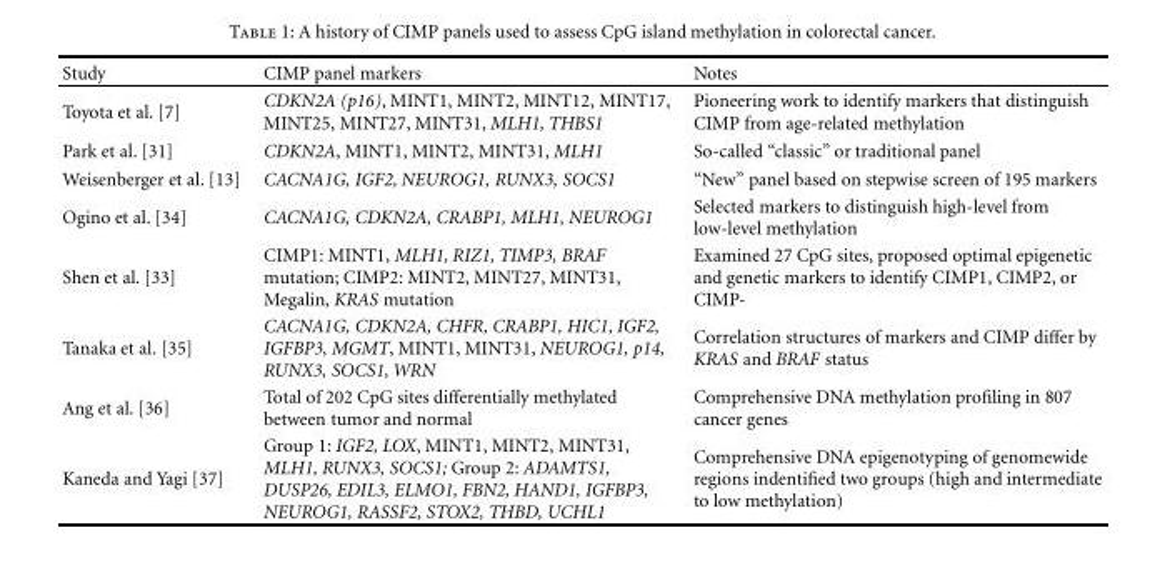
<table><thead><tr><td>Study</td><td>CIMP panel markers</td><td>Notes</td></tr></thead><tbody><tr><td>Toyota et al. [7]</td><td>CDKN2A (p16), MINT1, MINT2, MINT12, MINT17, MINT25, MINT27, MINT31, MLH1, THBS1</td><td>Pioneering work to identify markers that distinguish CIMP from age-related methylation</td></tr><tr><td>Park et al. [31]</td><td>CDKN2A, MINT1, MINT2, MINT31, MLH1</td><td>So-called “classic” or traditional panel</td></tr><tr><td>Weisenberger et al. [13]</td><td>CACNA1G, IGF2, NEUROG1, RUNX3, SOCS1</td><td>“New” panel based on stepwise screen of 195 markers</td></tr><tr><td>Ogino et al. [34]</td><td>CACNA1G, CDKN2A, CRABP1, MLH1, NEUROG1</td><td>Selected markers to distinguish high-level from low-level methylation</td></tr><tr><td>Shen et al. [33]</td><td>CIMP1: MINT1, MLH1, RIZ1, TIMP3, BRAF mutation; CIMP2: MINT2, MINT27, MINT31, Megalin, KRAS mutation</td><td>Examined 27 CpG sites, proposed optimal epigenetic and genetic markers to identify CIMP1, CIMP2, or CIMP-</td></tr><tr><td>Tanaka et al. [35]</td><td>CACNA1G, CDKN2A, CHFR, CRABP1, HIC1, IGF2, IGFBP3, MGMT, MINT1, MINT31, NEUROG1, p14, RUNX3, SOCS1, WRN</td><td>Correlation structures of markers and CIMP differ by KRAS and BRAF status</td></tr><tr><td>Ang et al. [36]</td><td>Total of 202 CpG sites differentially methylated between tumor and normal</td><td>Comprehensive DNA methylation profiling in 807 cancer genes</td></tr><tr><td>Kaneda and Yagi [37]</td><td>Group 1: IGF2, LOX, MINT1, MINT2, MINT31, MLH1, RUNX3, SOCS1; Group 2: ADAMTS1, DUSP26, EDIL3, ELMO1, FBN2, HAND1, IGFBP3, NEUROG1, RASSF2, STOX2, THBD, UCHL1</td><td>Comprehensive DNA epigenotyping of genomewide regions indentified two groups (high and intermediate to low methylation)</td></tr></tbody></table>